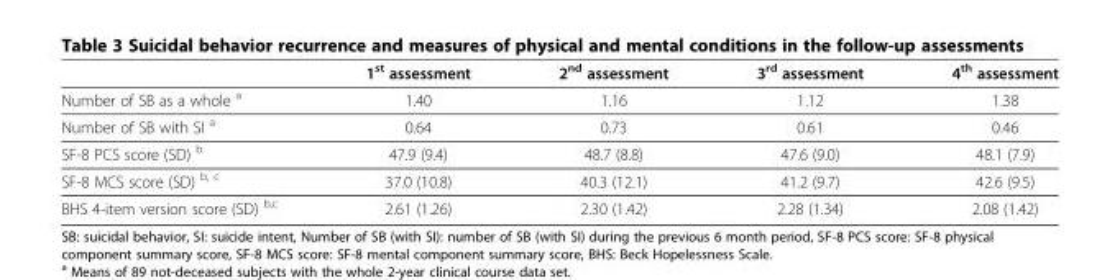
<table><thead><tr><td></td><td>1<sup>st</sup> assessment</td><td>2<sup>nd</sup> assessment</td><td>3<sup>rd</sup> assessment</td><td>4<sup>th</sup> assessment</td></tr></thead><tbody><tr><td>Number of SB as a whole <sup>a</sup></td><td>1.40</td><td>1.16</td><td>1.12</td><td>1.38</td></tr><tr><td>Number of SB with SI <sup>a</sup></td><td>0.64</td><td>0.73</td><td>0.61</td><td>0.46</td></tr><tr><td>SF-8 PCS score (SD) <sup>b</sup></td><td>47.9 (9.4)</td><td>48.7 (8.8)</td><td>47.6 (9.0)</td><td>48.1 (7.9)</td></tr><tr><td>SF-8 MCS score (SD) <sup>b, c</sup></td><td>37.0 (10.8)</td><td>40.3 (12.1)</td><td>41.2 (9.7)</td><td>42.6 (9.5)</td></tr><tr><td>BHS 4-item version score (SD) <sup>b,c</sup></td><td>2.61 (1.26)</td><td>2.30 (1.42)</td><td>2.28 (1.34)</td><td>2.08 (1.42)</td></tr></tbody></table>